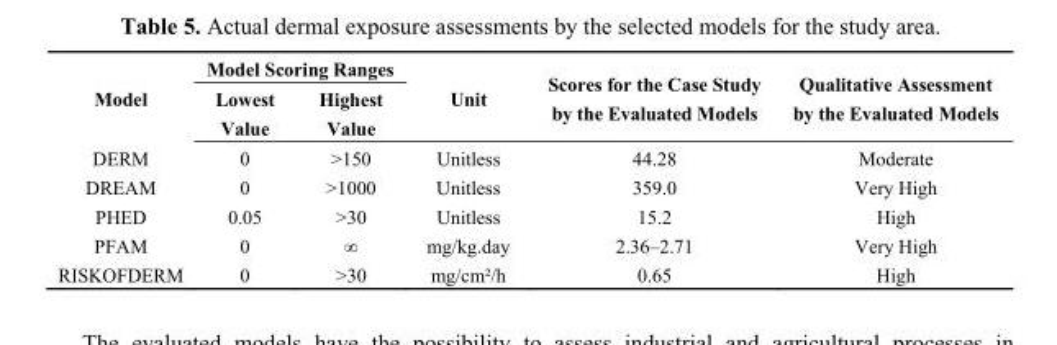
<table><thead><tr><td rowspan="2">Model</td><td colspan="2">Model Scoring Ranges</td><td rowspan="2">Unit</td><td rowspan="2">Scores for the Case Study by the Evaluated Models</td><td rowspan="2">Qualitative Assessment by the Evaluated Models</td></tr><tr><td>Lowest Value</td><td>Highest Value</td></tr></thead><tbody><tr><td>DERM</td><td>0</td><td>&gt;150</td><td>Unitless</td><td>44.28</td><td>Moderate</td></tr><tr><td>DREAM</td><td>0</td><td>&gt;1000</td><td>Unitless</td><td>359.0</td><td>Very High</td></tr><tr><td>PHED</td><td>0.05</td><td>&gt;30</td><td>Unitless</td><td>15.2</td><td>High</td></tr><tr><td>PFAM</td><td>0</td><td>∞</td><td>mg/kg.day</td><td>2.36–2.71</td><td>Very High</td></tr><tr><td>RISKOFDERM</td><td>0</td><td>&gt;30</td><td>mg/cm²/h</td><td>0.65</td><td>High</td></tr></tbody></table>